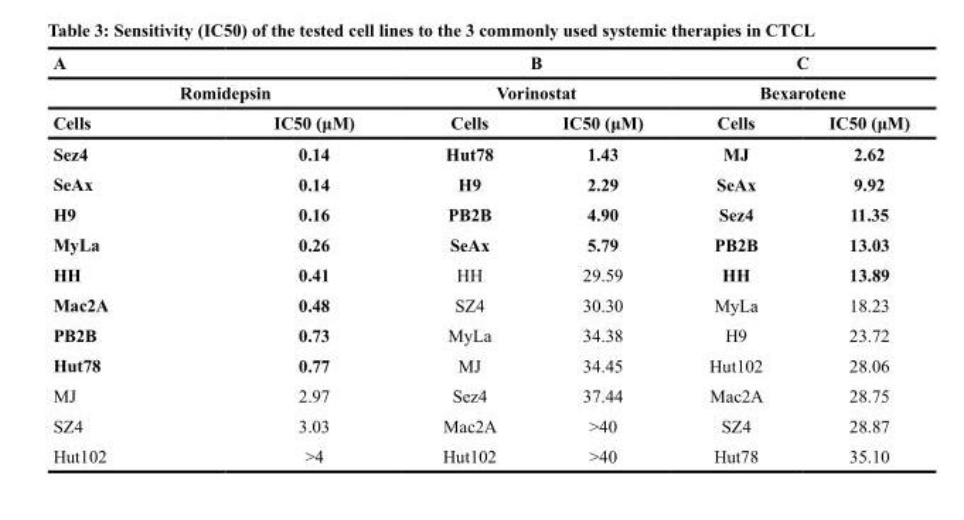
<table><thead><tr><td rowspan="2" colspan="2">A Romidepsin</td><td rowspan="2" colspan="2">B Vorinostat</td><td rowspan="2" colspan="2">C Bexarotene</td></tr><tr></tr><tr><td>Cells</td><td>IC50 (μM)</td><td>Cells</td><td>IC50 (μM)</td><td>Cells</td><td>IC50 (μM)</td></tr></thead><tbody><tr><td>Sez4</td><td>0.14</td><td>Hut78</td><td>1.43</td><td>MJ</td><td>2.62</td></tr><tr><td>SeAx</td><td>0.14</td><td>H9</td><td>2.29</td><td>SeAx</td><td>9.92</td></tr><tr><td>H9</td><td>0.16</td><td>PB2B</td><td>4.90</td><td>Sez4</td><td>11.35</td></tr><tr><td>MyLa</td><td>0.26</td><td>SeAx</td><td>5.79</td><td>PB2B</td><td>13.03</td></tr><tr><td>HH</td><td>0.41</td><td>HH</td><td>29.59</td><td>HH</td><td>13.89</td></tr><tr><td>Mac2A</td><td>0.48</td><td>SZ4</td><td>30.30</td><td>MyLa</td><td>18.23</td></tr><tr><td>PB2B</td><td>0.73</td><td>MyLa</td><td>34.38</td><td>H9</td><td>23.72</td></tr><tr><td>Hut78</td><td>0.77</td><td>MJ</td><td>34.45</td><td>Hut102</td><td>28.06</td></tr><tr><td>MJ</td><td>2.97</td><td>Sez4</td><td>37.44</td><td>Mac2A</td><td>28.75</td></tr><tr><td>SZ4</td><td>3.03</td><td>Mac2A</td><td>&gt;40</td><td>SZ4</td><td>28.87</td></tr><tr><td>Hut102</td><td>&gt;4</td><td>Hut102</td><td>&gt;40</td><td>Hut78</td><td>35.10</td></tr></tbody></table>